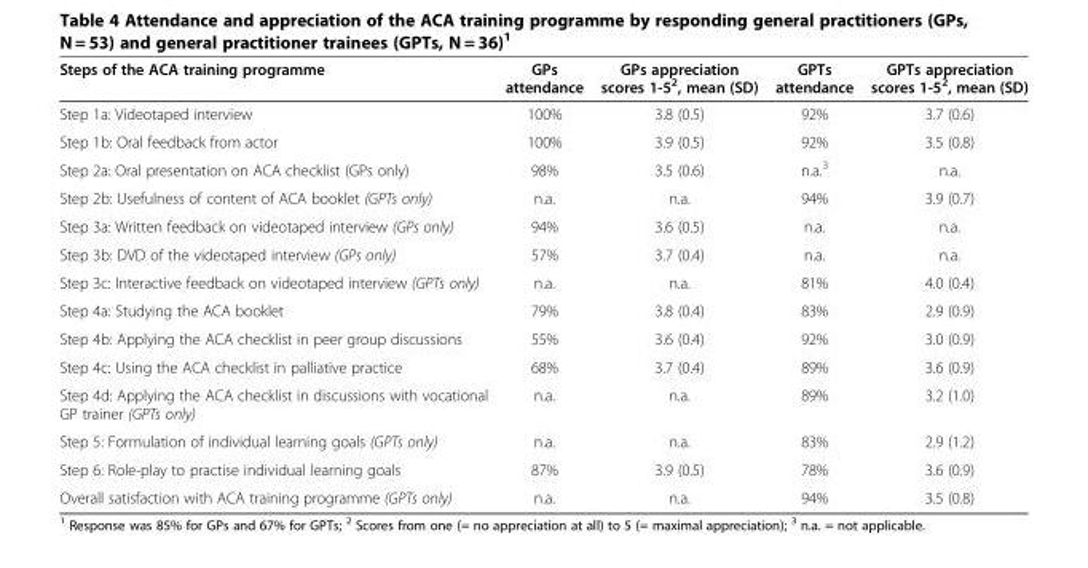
<table><thead><tr><td>Steps of the ACA training programme</td><td>GPs attendance</td><td>GPs appreciation scores 1-5<sup>2</sup>, mean (SD)</td><td>GPTs attendance</td><td>GPTs appreciation scores 1-5<sup>2</sup>, mean (SD)</td></tr></thead><tbody><tr><td>Step 1a: Videotaped interview</td><td>100%</td><td>3.8 (0.5)</td><td>92%</td><td>3.7 (0.6)</td></tr><tr><td>Step 1b: Oral feedback from actor</td><td>100%</td><td>3.9 (0.5)</td><td>92%</td><td>3.5 (0.8)</td></tr><tr><td>Step 2a: Oral presentation on ACA checklist (GPs only)</td><td>98%</td><td>3.5 (0.6)</td><td>n.a.<sup>3</sup></td><td>n.a.</td></tr><tr><td>Step 2b: Usefulness of content of ACA booklet (GPTs only)</td><td>n.a.</td><td>n.a.</td><td>94%</td><td>3.9 (0.7)</td></tr><tr><td>Step 3a: Written feedback on videotaped interview (GPs only)</td><td>94%</td><td>3.6 (0.5)</td><td>n.a.</td><td>n.a.</td></tr><tr><td>Step 3b: DVD of the videotaped interview (GPs only)</td><td>57%</td><td>3.7 (0.4)</td><td>n.a.</td><td>n.a.</td></tr><tr><td>Step 3c: Interactive feedback on videotaped interview (GPTs only)</td><td>n.a.</td><td>n.a.</td><td>81%</td><td>4.0 (0.4)</td></tr><tr><td>Step 4a: Studying the ACA booklet</td><td>79%</td><td>3.8 (0.4)</td><td>83%</td><td>2.9 (0.9)</td></tr><tr><td>Step 4b: Applying the ACA checklist in peer group discussions</td><td>55%</td><td>3.6 (0.4)</td><td>92%</td><td>3.0 (0.9)</td></tr><tr><td>Step 4c: Using the ACA checklist in palliative practice</td><td>68%</td><td>3.7 (0.4)</td><td>89%</td><td>3.6 (0.9)</td></tr><tr><td>Step 4d: Applying the ACA checklist in discussions with vocational GP trainer (GPTs only)</td><td>n.a.</td><td>n.a.</td><td>89%</td><td>3.2 (1.0)</td></tr><tr><td>Step 5: Formulation of individual learning goals (GPTs only)</td><td>n.a.</td><td>n.a.</td><td>83%</td><td>2.9 (1.2)</td></tr><tr><td>Step 6: Role-play to practise individual learning goals</td><td>87%</td><td>3.9 (0.5)</td><td>78%</td><td>3.6 (0.9)</td></tr><tr><td>Overall satisfaction with ACA training programme (GPTs only)</td><td>n.a.</td><td>n.a.</td><td>94%</td><td>3.5 (0.8)</td></tr></tbody></table>